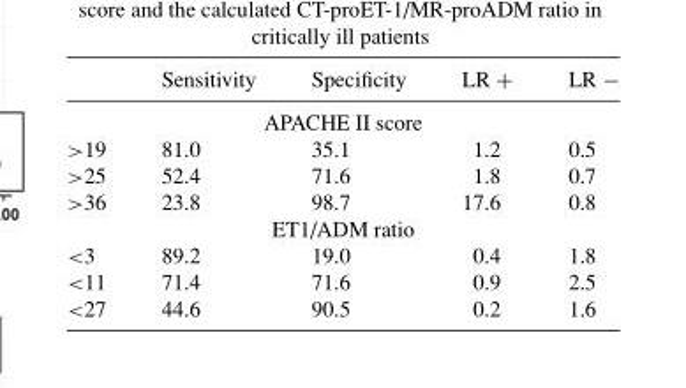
<table><thead><tr><td></td><td>Sensitivity</td><td>Specificity</td><td>LR +</td><td>LR −</td></tr></thead><tbody><tr><td colspan="5">APACHE II score</td></tr><tr><td>&gt;19</td><td>81.0</td><td>35.1</td><td>1.2</td><td>0.5</td></tr><tr><td>&gt;25</td><td>52.4</td><td>71.6</td><td>1.8</td><td>0.7</td></tr><tr><td>&gt;36</td><td>23.8</td><td>98.7</td><td>17.6</td><td>0.8</td></tr><tr><td colspan="5">ET1/ADM ratio</td></tr><tr><td>&lt;3</td><td>89.2</td><td>19.0</td><td>0.4</td><td>1.8</td></tr><tr><td>&lt;11</td><td>71.4</td><td>71.6</td><td>0.9</td><td>2.5</td></tr><tr><td>&lt;27</td><td>44.6</td><td>90.5</td><td>0.2</td><td>1.6</td></tr></tbody></table>